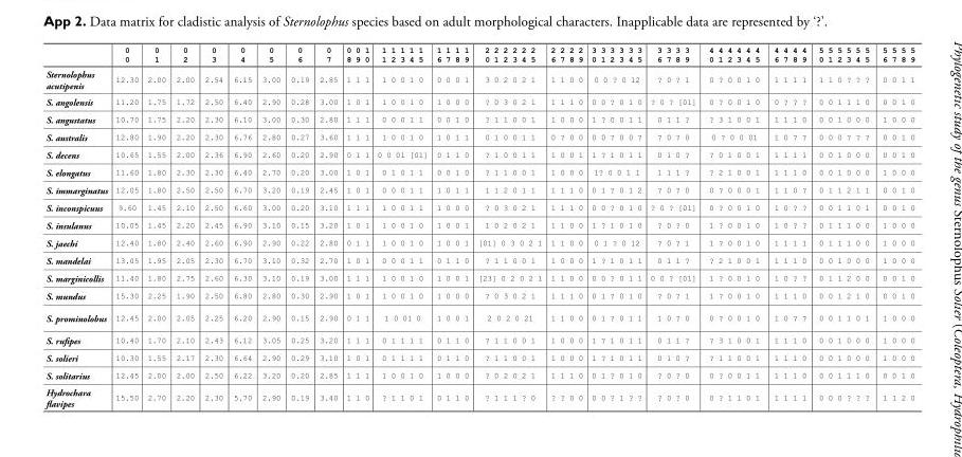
<table><thead><tr><td></td><td>0 0</td><td>0 1</td><td>0 2</td><td>0 3</td><td>0 4</td><td>0 5</td><td>0 6</td><td>0 7</td><td>0 0 1 8 9 0</td><td>1 1 1 1 1 1 2 3 4 5</td><td>1 1 1 1 6 7 8 9</td><td>2 2 2 2 2 2 0 1 2 3 4 5</td><td>2 2 2 2 6 7 8 9</td><td>3 3 3 3 3 3 0 1 2 3 4 5</td><td>3 3 3 3 6 7 8 9</td><td>4 4 4 4 4 4 0 1 2 3 4 5</td><td>4 4 4 4 6 7 8 9</td><td>5 5 5 5 5 5 0 1 2 3 4 5</td><td>5 5 5 5 6 7 8 9</td></tr></thead><tbody><tr><td>Sternolophus acutipenis</td><td>12.30</td><td>2.00</td><td>2.00</td><td>2.54</td><td>6.15</td><td>3.00</td><td>0.19</td><td>2.85</td><td>1 1 1</td><td>1 0 0 1 0</td><td>0 0 0 1</td><td>3 0 2 0 2 1</td><td>1 1 0 0</td><td>0 0 ? 0 12</td><td>? 0 ? 1</td><td>0 ? 0 0 1 0</td><td>1 1 1 1</td><td>1 1 0 ? ? ?</td><td>0 0 1 1</td></tr><tr><td>S. angolensis</td><td>11.20</td><td>1.75</td><td>1.72</td><td>2.50</td><td>6.40</td><td>2.90</td><td>0.28</td><td>3.00</td><td>1 0 1</td><td>1 0 0 1 0</td><td>1 0 0 0</td><td>? 0 3 0 2 1</td><td>1 1 1 0</td><td>0 0 ? 0 1 0</td><td>? 0 ? [01]</td><td>0 ? 0 0 1 0</td><td>0 ? ? ?</td><td>0 0 1 1 1 0</td><td>0 0 1 0</td></tr><tr><td>S. angustatus</td><td>10.70</td><td>1.75</td><td>2.20</td><td>2.30</td><td>6.10</td><td>3.00</td><td>0.30</td><td>2.80</td><td>1 1 1</td><td>0 0 0 1 1</td><td>0 0 1 0</td><td>? 1 1 0 0 1</td><td>1 0 0 0</td><td>1 ? 0 0 1 1</td><td>0 1 1 ?</td><td>? 3 1 0 0 1</td><td>1 1 1 0</td><td>0 0 1 0 0 0</td><td>1 0 0 0</td></tr><tr><td>S. australis</td><td>12.80</td><td>1.90</td><td>2.20</td><td>2.30</td><td>6.76</td><td>2.80</td><td>0.27</td><td>3.60</td><td>1 1 1</td><td>1 0 0 1 0</td><td>1 0 1 1</td><td>0 1 0 0 1 1</td><td>0 ? 0 0</td><td>0 0 ? 0 0 ?</td><td>? 0 ? 0</td><td>0 ? 0 0 01</td><td>1 0 ? ?</td><td>0 0 0 ? ? ?</td><td>0 0 1 0</td></tr><tr><td>S. decens</td><td>10.65</td><td>1.55</td><td>2.00</td><td>2.36</td><td>6.90</td><td>2.60</td><td>0.20</td><td>2.90</td><td>0 1 1</td><td>0 0 01 [01]</td><td>0 1 1 0</td><td>? 1 0 0 1 1</td><td>1 0 0 1</td><td>1 ? 1 0 1 1</td><td>0 1 0 ?</td><td>? 0 1 0 0 1</td><td>1 1 1 1</td><td>0 0 1 0 0 0</td><td>0 0 1 0</td></tr><tr><td>S. elongatus</td><td>11.60</td><td>1.80</td><td>2.30</td><td>2.30</td><td>6.40</td><td>2.70</td><td>0.20</td><td>3.00</td><td>1 0 1</td><td>0 1 0 1 1</td><td>0 0 1 0</td><td>? 1 1 0 0 1</td><td>1 0 0 0</td><td>1? 0 0 1 1</td><td>1 1 1 ?</td><td>? 2 1 0 0 1</td><td>1 1 1 0</td><td>0 0 1 0 0 0</td><td>1 0 0 0</td></tr><tr><td>S. immarginatus</td><td>12.05</td><td>1.80</td><td>2.50</td><td>2.50</td><td>6.70</td><td>3.20</td><td>0.19</td><td>2.45</td><td>1 0 1</td><td>0 0 0 1 1</td><td>1 0 1 1</td><td>1 1 2 0 1 1</td><td>1 1 1 0</td><td>0 1 ? 0 1 2</td><td>? 0 ? 0</td><td>0 ? 0 0 0 1</td><td>1 1 0 ?</td><td>0 1 1 2 1 1</td><td>0 0 1 0</td></tr><tr><td>S. inconspicuus</td><td>9.60</td><td>1.45</td><td>2.10</td><td>2.50</td><td>6.60</td><td>3.00</td><td>0.20</td><td>3.10</td><td>1 1 1</td><td>1 0 0 1 1</td><td>1 0 0 0</td><td>? 0 3 0 2 1</td><td>1 1 1 0</td><td>0 0 ? 0 1 0</td><td>? 0 ? [01]</td><td>0 ? 0 0 1 0</td><td>1 0 ? ?</td><td>0 0 1 1 0 1</td><td>0 0 1 0</td></tr><tr><td>S. insulanus</td><td>10.05</td><td>1.45</td><td>2.20</td><td>2.45</td><td>6.90</td><td>3.10</td><td>0.15</td><td>3.20</td><td>1 0 1</td><td>1 0 0 1 0</td><td>1 0 0 1</td><td>1 0 2 0 2 1</td><td>1 1 0 0</td><td>1 ? 1 0 1 0</td><td>? 0 ? 0</td><td>1 ? 0 0 1 0</td><td>1 0 ? ?</td><td>0 1 1 1 0 0</td><td>1 0 0 0</td></tr><tr><td>S. jaechi</td><td>12.40</td><td>1.80</td><td>2.40</td><td>2.60</td><td>6.90</td><td>2.90</td><td>0.22</td><td>2.80</td><td>0 1 1</td><td>1 0 0 1 0</td><td>1 0 0 1</td><td>[01] 0 3 0 2 1</td><td>1 1 0 0</td><td>0 1 ? 0 12</td><td>? 0 ? 1</td><td>1 ? 0 0 1 0</td><td>1 1 1 1</td><td>0 1 1 1 0 0</td><td>1 0 0 0</td></tr><tr><td>S. mandelai</td><td>13.05</td><td>1.95</td><td>2.05</td><td>2.30</td><td>6.70</td><td>3.10</td><td>0.32</td><td>2.70</td><td>1 0 1</td><td>0 0 0 1 1</td><td>0 1 1 0</td><td>? 1 1 0 0 1</td><td>1 0 0 0</td><td>1 ? 1 0 1 1</td><td>0 1 1 ?</td><td>? 2 1 0 0 1</td><td>1 1 1 0</td><td>0 0 1 0 0 0</td><td>1 0 0 0</td></tr><tr><td>S. marginicollis</td><td>11.40</td><td>1.80</td><td>2.75</td><td>2.60</td><td>6.30</td><td>3.10</td><td>0.19</td><td>3.00</td><td>1 1 1</td><td>1 0 0 1 0</td><td>1 0 0 1</td><td>[23] 0 2 0 2 1</td><td>1 1 0 0</td><td>0 0 ? 0 1 1</td><td>0 0 ? [01]</td><td>1 ? 0 0 1 0</td><td>1 0 ? ?</td><td>0 1 1 2 0 0</td><td>0 0 1 0</td></tr><tr><td>S. mundus</td><td>15.30</td><td>2.25</td><td>1.90</td><td>2.50</td><td>6.80</td><td>2.80</td><td>0.30</td><td>2.90</td><td>1 0 1</td><td>1 0 0 1 0</td><td>1 0 0 0</td><td>? 0 3 0 2 1</td><td>1 1 1 0</td><td>0 1 ? 0 1 0</td><td>? 0 ? 1</td><td>1 ? 0 0 1 0</td><td>1 1 1 0</td><td>0 0 1 2 1 0</td><td>0 0 1 0</td></tr><tr><td>S. prominolobus</td><td>12.45</td><td>2.00</td><td>2.05</td><td>2.25</td><td>6.20</td><td>2.90</td><td>0.15</td><td>2.90</td><td>0 1 1</td><td>1 0 01 0</td><td>1 0 0 1</td><td>2 0 2 0 21</td><td>1 1 0 0</td><td>0 1 ? 0 1 1</td><td>1 0 ? 0</td><td>0 ? 0 0 1 0</td><td>1 0 ? ?</td><td>0 0 1 1 0 1</td><td>1 0 0 0</td></tr><tr><td>S. rufipes</td><td>10.40</td><td>1.70</td><td>2.10</td><td>2.43</td><td>6.12</td><td>3.05</td><td>0.25</td><td>3.20</td><td>1 1 1</td><td>0 1 1 1 1</td><td>0 1 1 0</td><td>? 1 1 0 0 1</td><td>1 0 0 0</td><td>1 ? 1 0 1 1</td><td>0 1 1 ?</td><td>? 3 1 0 0 1</td><td>1 1 1 0</td><td>0 0 1 0 0 0</td><td>1 0 0 0</td></tr><tr><td>S. solieri</td><td>10.30</td><td>1.55</td><td>2.17</td><td>2.30</td><td>6.64</td><td>2.90</td><td>0.29</td><td>3.10</td><td>1 0 1</td><td>0 1 1 1 1</td><td>0 1 1 0</td><td>? 1 1 0 0 1</td><td>1 0 0 0</td><td>1 ? 1 0 1 1</td><td>0 1 0 ?</td><td>? 1 1 0 0 1</td><td>1 1 1 0</td><td>0 0 1 0 0 0</td><td>1 0 0 0</td></tr><tr><td>S. solitarius</td><td>12.45</td><td>2.00</td><td>2.00</td><td>2.50</td><td>6.22</td><td>3.20</td><td>0.20</td><td>2.85</td><td>1 1 1</td><td>1 0 0 1 0</td><td>1 0 0 0</td><td>? 0 2 0 2 1</td><td>1 1 1 0</td><td>0 1 ? 0 1 0</td><td>? 0 ? 0</td><td>0 ? 0 0 1 1</td><td>1 1 1 0</td><td>0 0 1 1 1 0</td><td>0 0 1 0</td></tr><tr><td>Hydrochara flavipes</td><td>15.50</td><td>2.70</td><td>2.20</td><td>2.30</td><td>5.70</td><td>2.90</td><td>0.19</td><td>3.40</td><td>1 1 0</td><td>? 1 1 0 1</td><td>0 1 1 0</td><td>? 1 1 1 ? 0</td><td>? ? 0 0</td><td>0 0 ? 1 ? ?</td><td>? 0 ? 0</td><td>0 ? 1 1 0 1</td><td>1 1 1 1</td><td>0 0 0 ? ? ?</td><td>1 1 2 0</td></tr></tbody></table>